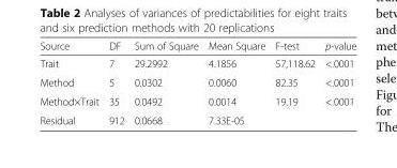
<table><thead><tr><td>Source</td><td>DF</td><td>Sum of Square</td><td>Mean Square</td><td>F-test</td><td>p-value</td></tr></thead><tbody><tr><td>Trait</td><td>7</td><td>29.2992</td><td>4.1856</td><td>57,118.62</td><td>&lt;.0001</td></tr><tr><td>Method</td><td>5</td><td>0.0302</td><td>0.0060</td><td>82.35</td><td>&lt;.0001</td></tr><tr><td>Method×Trait</td><td>35</td><td>0.0492</td><td>0.0014</td><td>19.19</td><td>&lt;.0001</td></tr><tr><td>Residual</td><td>912</td><td>0.0668</td><td>7.33E-05</td><td></td><td></td></tr></tbody></table>